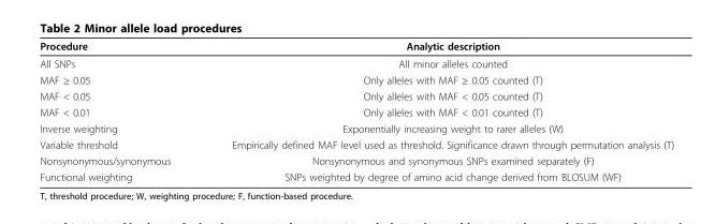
<table><thead><tr><td>Procedure</td><td>Analytic description</td></tr></thead><tbody><tr><td>All SNPs</td><td>All minor alleles counted</td></tr><tr><td>MAF ≥ 0.05</td><td>Only alleles with MAF ≥ 0.05 counted (T)</td></tr><tr><td>MAF &lt; 0.05</td><td>Only alleles with MAF &lt; 0.05 counted (T)</td></tr><tr><td>MAF &lt; 0.01</td><td>Only alleles with MAF &lt; 0.01 counted (T)</td></tr><tr><td>Inverse weighting</td><td>Exponentially increasing weight to rarer alleles (W)</td></tr><tr><td>Variable threshold</td><td>Empirically defined MAF level used as threshold. Significance drawn through permutation analysis (T)</td></tr><tr><td>Nonsynonymous/synonymous</td><td>Nonsynonymous and synonymous SNPs examined separately (F)</td></tr><tr><td>Functional weighting</td><td>SNPs weighted by degree of amino acid change derived from BLOSUM (WF)</td></tr></tbody></table>